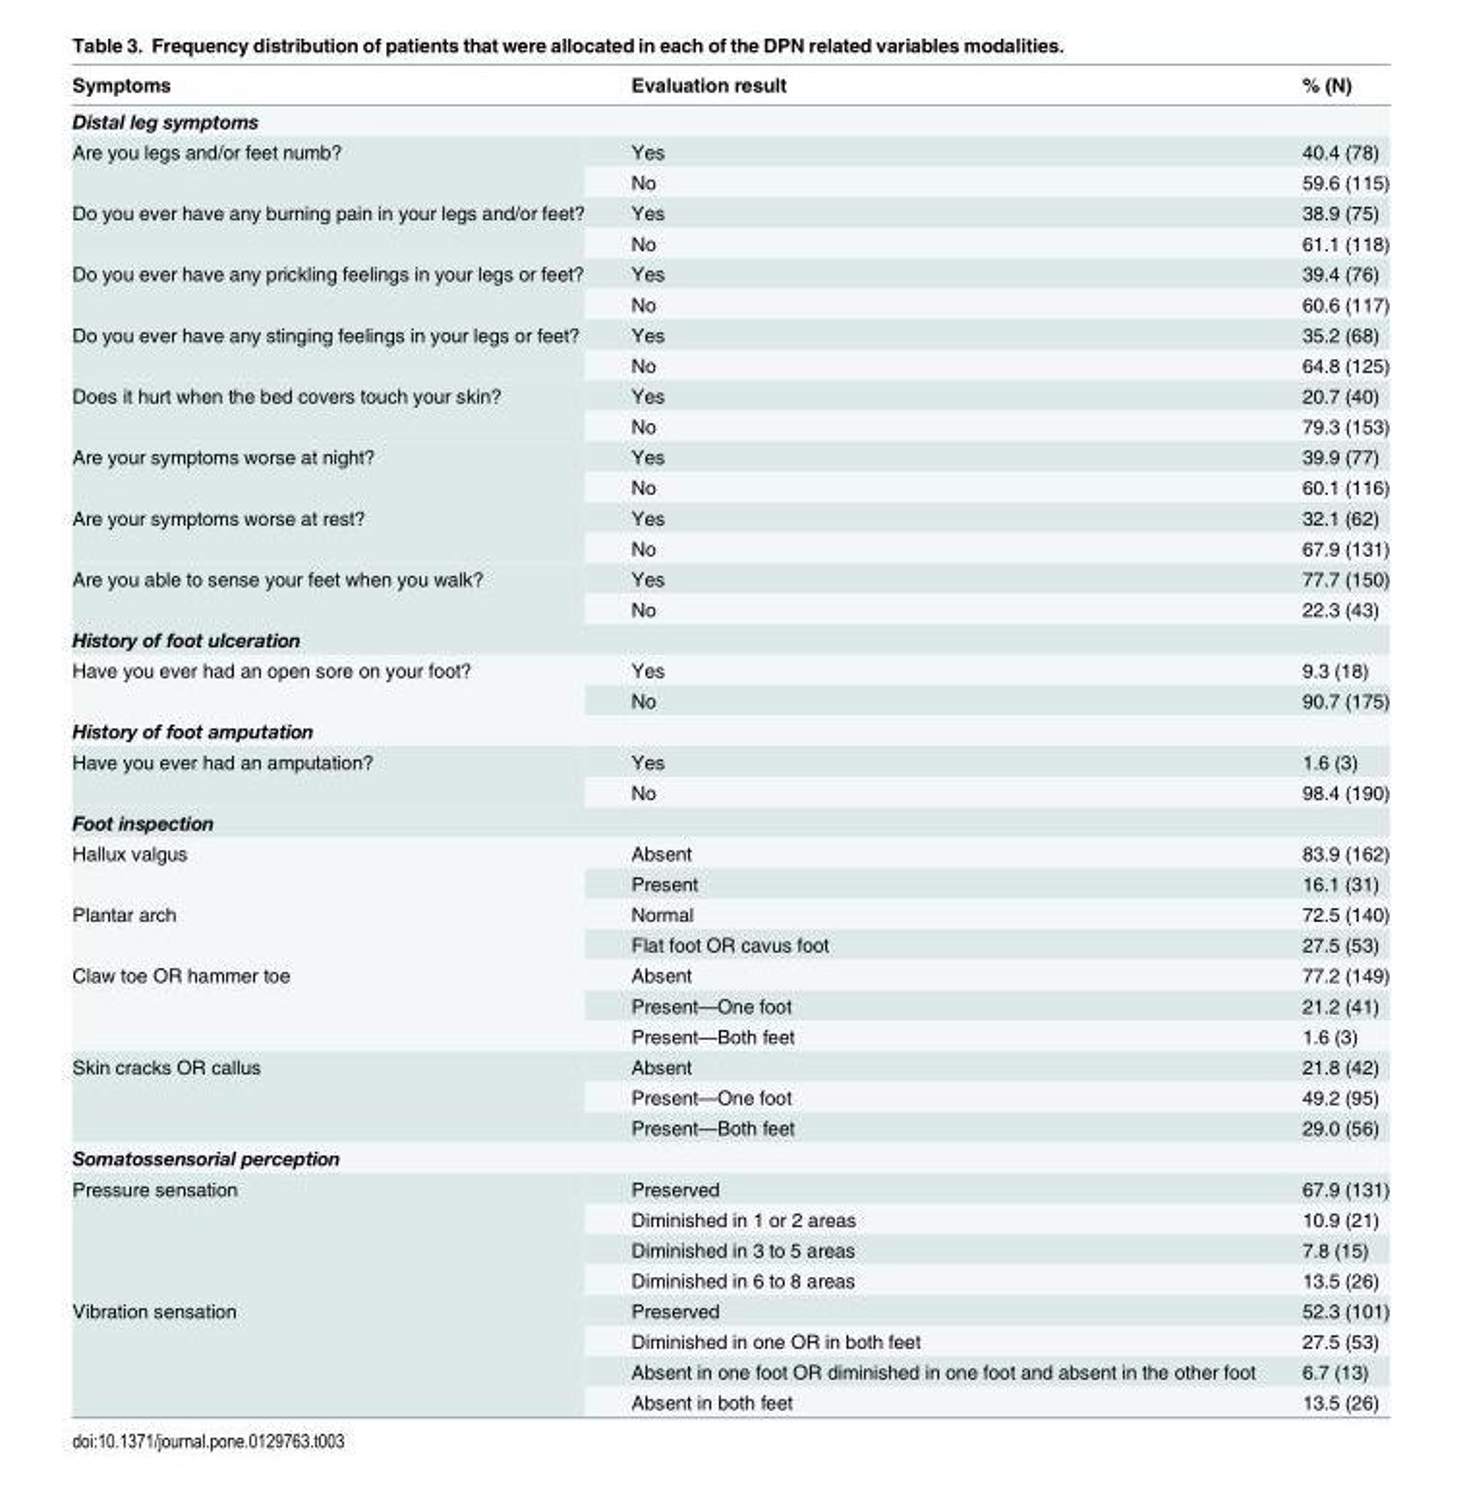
<table><thead><tr><td>Symptoms</td><td>Evaluation result</td><td>% (N)</td></tr></thead><tbody><tr><td colspan="3">Distal leg symptoms</td></tr><tr><td rowspan="2">Are you legs and/or feet numb?</td><td>Yes</td><td>40.4 (78)</td></tr><tr><td>No</td><td>59.6 (115)</td></tr><tr><td rowspan="2">Do you ever have any burning pain in your legs and/or feet?</td><td>Yes</td><td>38.9 (75)</td></tr><tr><td>No</td><td>61.1 (118)</td></tr><tr><td rowspan="2">Do you ever have any prickling feelings in your legs or feet?</td><td>Yes</td><td>39.4 (76)</td></tr><tr><td>No</td><td>60.6 (117)</td></tr><tr><td rowspan="2">Do you ever have any stinging feelings in your legs or feet?</td><td>Yes</td><td>35.2 (68)</td></tr><tr><td>No</td><td>64.8 (125)</td></tr><tr><td rowspan="2">Does it hurt when the bed covers touch your skin?</td><td>Yes</td><td>20.7 (40)</td></tr><tr><td>No</td><td>79.3 (153)</td></tr><tr><td rowspan="2">Are your symptoms worse at night?</td><td>Yes</td><td>39.9 (77)</td></tr><tr><td>No</td><td>60.1 (116)</td></tr><tr><td rowspan="2">Are your symptoms worse at rest?</td><td>Yes</td><td>32.1 (62)</td></tr><tr><td>No</td><td>67.9 (131)</td></tr><tr><td rowspan="2">Are you able to sense your feet when you walk?</td><td>Yes</td><td>77.7 (150)</td></tr><tr><td>No</td><td>22.3 (43)</td></tr><tr><td colspan="3">History of foot ulceration</td></tr><tr><td rowspan="2">Have you ever had an open sore on your foot?</td><td>Yes</td><td>9.3 (18)</td></tr><tr><td>No</td><td>90.7 (175)</td></tr><tr><td colspan="3">History of foot amputation</td></tr><tr><td rowspan="2">Have you ever had an amputation?</td><td>Yes</td><td>1.6 (3)</td></tr><tr><td>No</td><td>98.4 (190)</td></tr><tr><td colspan="3">Foot inspection</td></tr><tr><td rowspan="2">Hallux valgus</td><td>Absent</td><td>83.9 (162)</td></tr><tr><td>Present</td><td>16.1 (31)</td></tr><tr><td rowspan="2">Plantar arch</td><td>Normal</td><td>72.5 (140)</td></tr><tr><td>Flat foot OR cavus foot</td><td>27.5 (53)</td></tr><tr><td rowspan="3">Claw toe OR hammer toe</td><td>Absent</td><td>77.2 (149)</td></tr><tr><td>Present—One foot</td><td>21.2 (41)</td></tr><tr><td>Present—Both feet</td><td>1.6 (3)</td></tr><tr><td rowspan="3">Skin cracks OR callus</td><td>Absent</td><td>21.8 (42)</td></tr><tr><td>Present—One foot</td><td>49.2 (95)</td></tr><tr><td>Present—Both feet</td><td>29.0 (56)</td></tr><tr><td colspan="3">Somatossensorial perception</td></tr><tr><td rowspan="4">Pressure sensation</td><td>Preserved</td><td>67.9 (131)</td></tr><tr><td>Diminished in 1 or 2 areas</td><td>10.9 (21)</td></tr><tr><td>Diminished in 3 to 5 areas</td><td>7.8 (15)</td></tr><tr><td>Diminished in 6 to 8 areas</td><td>13.5 (26)</td></tr><tr><td rowspan="4">Vibration sensation</td><td>Preserved</td><td>52.3 (101)</td></tr><tr><td>Diminished in one OR in both feet</td><td>27.5 (53)</td></tr><tr><td>Absent in one foot OR diminished in one foot and absent in the other foot</td><td>6.7 (13)</td></tr><tr><td>Absent in both feet</td><td>13.5 (26)</td></tr></tbody></table>